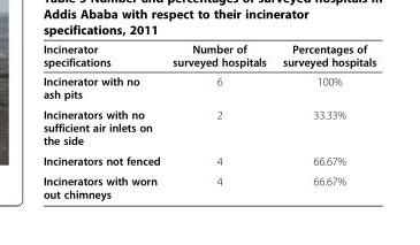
<table><thead><tr><td>Incinerator specifications</td><td>Number of surveyed hospitals</td><td>Percentages of surveyed hospitals</td></tr></thead><tbody><tr><td>Incinerator with no ash pits</td><td>6</td><td>100%</td></tr><tr><td>Incinerators with no sufficient air inlets on the side</td><td>2</td><td>33.33%</td></tr><tr><td>Incinerators not fenced</td><td>4</td><td>66.67%</td></tr><tr><td>Incinerators with worn out chimneys</td><td>4</td><td>66.67%</td></tr></tbody></table>